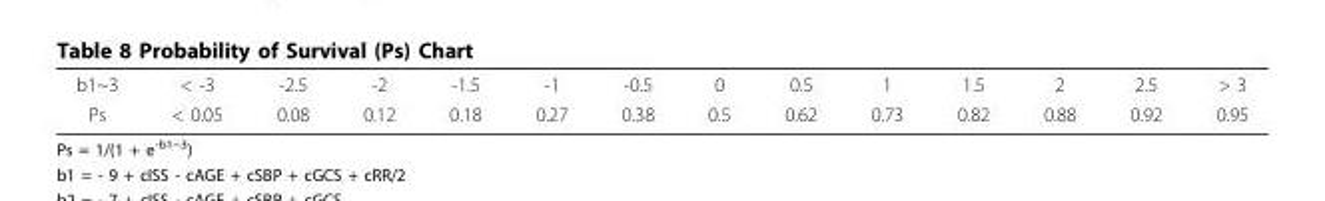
<table><tbody><tr><td>b1~3</td><td>&lt; -3</td><td>-2.5</td><td>-2</td><td>-1.5</td><td>-1</td><td>-0.5</td><td>0</td><td>0.5</td><td>1</td><td>1.5</td><td>2</td><td>2.5</td><td>&gt; 3</td></tr><tr><td>Ps</td><td>&lt; 0.05</td><td>0.08</td><td>0.12</td><td>0.18</td><td>0.27</td><td>0.38</td><td>0.5</td><td>0.62</td><td>0.73</td><td>0.82</td><td>0.88</td><td>0.92</td><td>0.95</td></tr></tbody></table>